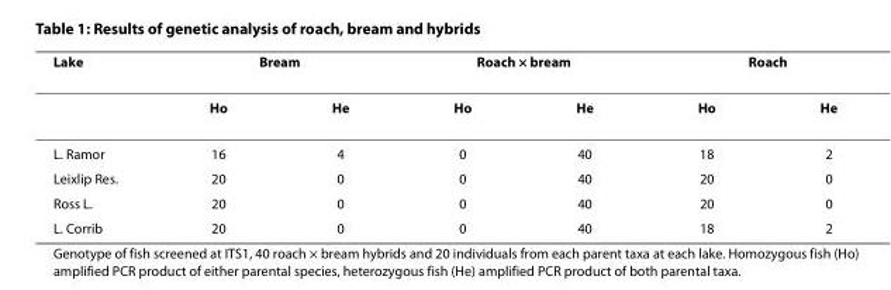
<table><thead><tr><td rowspan="2">Lake</td><td colspan="2">Bream</td><td colspan="2">Roach × bream</td><td colspan="2">Roach</td></tr><tr><td>Ho</td><td>He</td><td>Ho</td><td>He</td><td>Ho</td><td>He</td></tr></thead><tbody><tr><td>L. Ramor</td><td>16</td><td>4</td><td>0</td><td>40</td><td>18</td><td>2</td></tr><tr><td>Leixlip Res.</td><td>20</td><td>0</td><td>0</td><td>40</td><td>20</td><td>0</td></tr><tr><td>Ross L.</td><td>20</td><td>0</td><td>0</td><td>40</td><td>20</td><td>0</td></tr><tr><td>L. Corrib</td><td>20</td><td>0</td><td>0</td><td>40</td><td>18</td><td>2</td></tr></tbody></table>